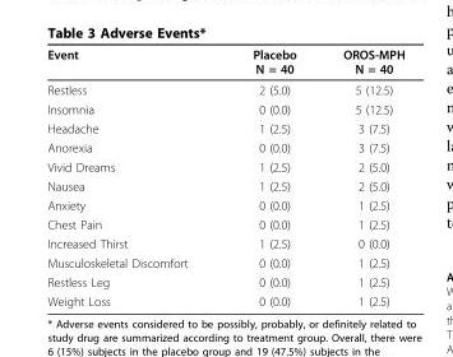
<table><thead><tr><td>Event</td><td>Placebo N = 40</td><td>OROS-MPH N = 40</td></tr></thead><tbody><tr><td>Restless</td><td>2 (5.0)</td><td>5 (12.5)</td></tr><tr><td>Insomnia</td><td>0 (0.0)</td><td>5 (12.5)</td></tr><tr><td>Headache</td><td>1 (2.5)</td><td>3 (7.5)</td></tr><tr><td>Anorexia</td><td>0 (0.0)</td><td>3 (7.5)</td></tr><tr><td>Vivid Dreams</td><td>1 (2.5)</td><td>2 (5.0)</td></tr><tr><td>Nausea</td><td>1 (2.5)</td><td>2 (5.0)</td></tr><tr><td>Anxiety</td><td>0 (0.0)</td><td>1 (2.5)</td></tr><tr><td>Chest Pain</td><td>0 (0.0)</td><td>1 (2.5)</td></tr><tr><td>Increased Thirst</td><td>1 (2.5)</td><td>0 (0.0)</td></tr><tr><td>Musculoskeletal Discomfort</td><td>0 (0.0)</td><td>1 (2.5)</td></tr><tr><td>Restless Leg</td><td>0 (0.0)</td><td>1 (2.5)</td></tr><tr><td>Weight Loss</td><td>0 (0.0)</td><td>1 (2.5)</td></tr></tbody></table>